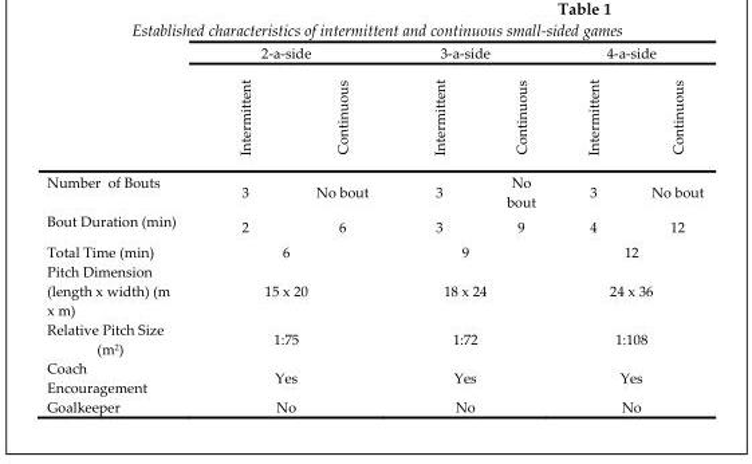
<table><thead><tr><td rowspan="2"></td><td colspan="2">2-a-side</td><td colspan="2">3-a-side</td><td colspan="2">4-a-side</td></tr><tr><td>Intermittent</td><td>Continuous</td><td>Intermittent</td><td>Continuous</td><td>Intermittent</td><td>Continuous</td></tr></thead><tbody><tr><td>Number of Bouts</td><td>3</td><td>No bout</td><td>3</td><td>No bout</td><td>3</td><td>No bout</td></tr><tr><td>Bout Duration (min)</td><td>2</td><td>6</td><td>3</td><td>9</td><td>4</td><td>12</td></tr><tr><td>Total Time (min)</td><td colspan="2">6</td><td colspan="2">9</td><td colspan="2">12</td></tr><tr><td>Pitch Dimension (length x width) (m x m)</td><td colspan="2">15 x 20</td><td colspan="2">18 x 24</td><td colspan="2">24 x 36</td></tr><tr><td>Relative Pitch Size (m<sup>2</sup>)</td><td colspan="2">1:75</td><td colspan="2">1:72</td><td colspan="2">1:108</td></tr><tr><td>Coach Encouragement</td><td colspan="2">Yes</td><td colspan="2">Yes</td><td colspan="2">Yes</td></tr><tr><td>Goalkeeper</td><td colspan="2">No</td><td colspan="2">No</td><td colspan="2">No</td></tr></tbody></table>